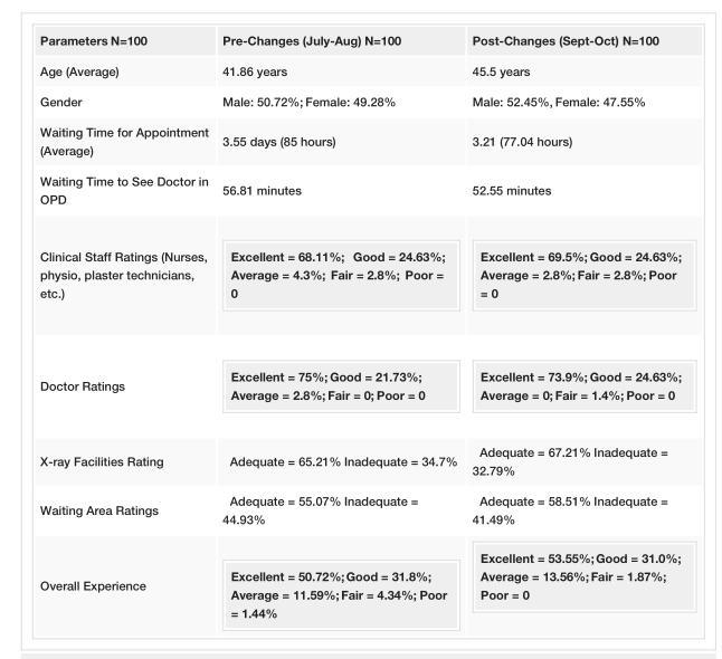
<table><tbody><tr><td>Parameters N=100</td><td>Pre-Changes (July-Aug) N=100</td><td>Post-Changes (Sept-Oct) N=100</td></tr><tr><td>Age (Average)</td><td>41.86 years</td><td>45.5 years</td></tr><tr><td>Gender</td><td>Male: 50.72%; Female: 49.28%</td><td>Male: 52.45%, Female: 47.55%</td></tr><tr><td>Waiting Time for Appointment (Average)</td><td>3.55 days (85 hours)</td><td>3.21 (77.04 hours)</td></tr><tr><td>Waiting Time to See Doctor in OPD</td><td>56.81 minutes</td><td>52.55 minutes</td></tr><tr><td>Clinical Staff Ratings (Nurses, physio, plaster technicians, etc.)</td><td>Excellent = 68.11%; Good = 24.63%; Average = 4.3%; Fair = 2.8%; Poor = 0</td><td>Excellent = 69.5%; Good = 24.63%; Average = 2.8%; Fair = 2.8%; Poor = 0</td></tr><tr><td>Doctor Ratings</td><td>Excellent = 75%; Good = 21.73%; Average = 2.8%; Fair = 0; Poor = 0</td><td>Excellent = 73.9%; Good = 24.63%; Average = 0; Fair = 1.4%; Poor = 0</td></tr><tr><td>X-ray Facilities Rating</td><td>Adequate = 65.21% Inadequate = 34.7%</td><td>Adequate = 67.21% Inadequate = 32.79%</td></tr><tr><td>Waiting Area Ratings</td><td>Adequate = 55.07% Inadequate = 44.93%</td><td>Adequate = 58.51% Inadequate = 41.49%</td></tr><tr><td>Overall Experience</td><td>Excellent = 50.72%; Good = 31.8%; Average = 11.59%; Fair = 4.34%; Poor = 1.44%</td><td>Excellent = 53.55%; Good = 31.0%; Average = 13.56%; Fair = 1.87%; Poor = 0</td></tr></tbody></table>